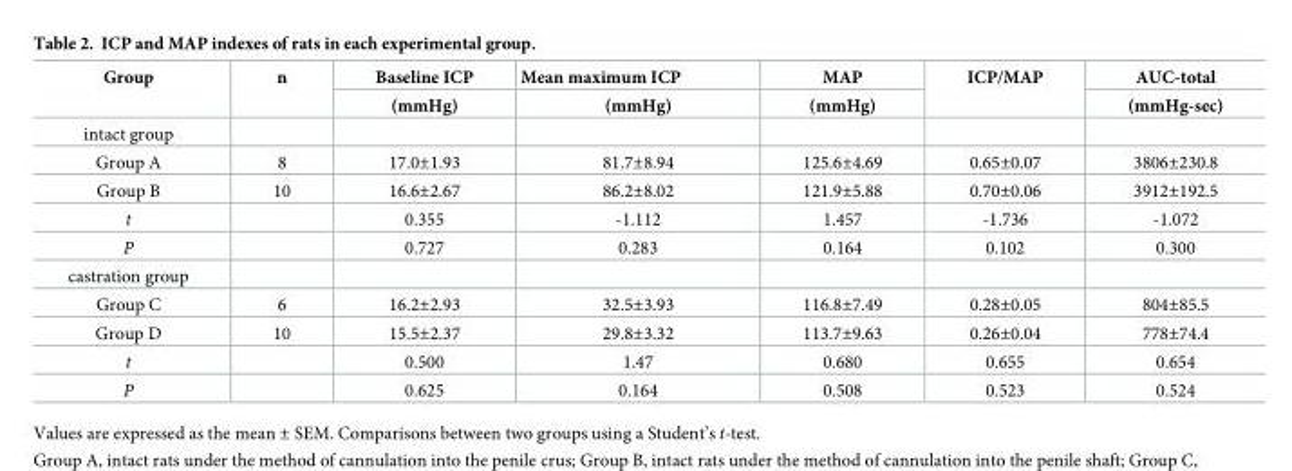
<table><thead><tr><td rowspan="2">Group</td><td rowspan="2">n</td><td rowspan="2">Baseline ICP (mmHg)</td><td rowspan="2">Mean maximum ICP (mmHg)</td><td rowspan="2">MAP (mmHg)</td><td rowspan="2">ICP/MAP</td><td rowspan="2">AUC-total (mmHg-sec)</td></tr><tr></tr></thead><tbody><tr><td colspan="7">intact group</td></tr><tr><td>Group A</td><td>8</td><td>17.0±1.93</td><td>81.7±8.94</td><td>125.6±4.69</td><td>0.65±0.07</td><td>3806±230.8</td></tr><tr><td>Group B</td><td>10</td><td>16.6±2.67</td><td>86.2±8.02</td><td>121.9±5.88</td><td>0.70±0.06</td><td>3912±192.5</td></tr><tr><td>t</td><td></td><td>0.355</td><td>-1.112</td><td>1.457</td><td>-1.736</td><td>-1.072</td></tr><tr><td>P</td><td></td><td>0.727</td><td>0.283</td><td>0.164</td><td>0.102</td><td>0.300</td></tr><tr><td colspan="7">castration group</td></tr><tr><td>Group C</td><td>6</td><td>16.2±2.93</td><td>32.5±3.93</td><td>116.8±7.49</td><td>0.28±0.05</td><td>804±85.5</td></tr><tr><td>Group D</td><td>10</td><td>15.5±2.37</td><td>29.8±3.32</td><td>113.7±9.63</td><td>0.26±0.04</td><td>778±74.4</td></tr><tr><td>t</td><td></td><td>0.500</td><td>1.47</td><td>0.680</td><td>0.655</td><td>0.654</td></tr><tr><td>P</td><td></td><td>0.625</td><td>0.164</td><td>0.508</td><td>0.523</td><td>0.524</td></tr></tbody></table>